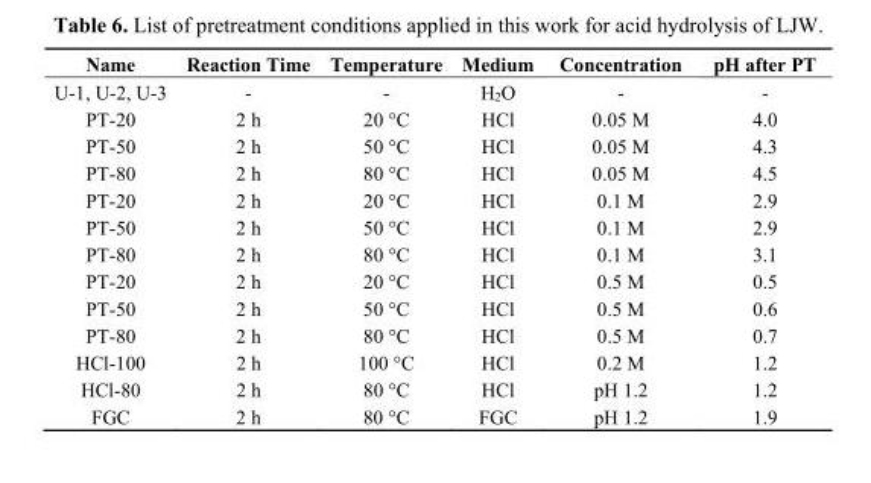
<table><thead><tr><td>Name</td><td>Reaction Time</td><td>Temperature</td><td>Medium</td><td>Concentration</td><td>pH after PT</td></tr></thead><tbody><tr><td>U-1, U-2, U-3</td><td>-</td><td>-</td><td>H<sub>2</sub>O</td><td>-</td><td>-</td></tr><tr><td>PT-20</td><td>2 h</td><td>20 °C</td><td>HCl</td><td>0.05 M</td><td>4.0</td></tr><tr><td>PT-50</td><td>2 h</td><td>50 °C</td><td>HCl</td><td>0.05 M</td><td>4.3</td></tr><tr><td>PT-80</td><td>2 h</td><td>80 °C</td><td>HCl</td><td>0.05 M</td><td>4.5</td></tr><tr><td>PT-20</td><td>2 h</td><td>20 °C</td><td>HCl</td><td>0.1 M</td><td>2.9</td></tr><tr><td>PT-50</td><td>2 h</td><td>50 °C</td><td>HCl</td><td>0.1 M</td><td>2.9</td></tr><tr><td>PT-80</td><td>2 h</td><td>80 °C</td><td>HCl</td><td>0.1 M</td><td>3.1</td></tr><tr><td>PT-20</td><td>2 h</td><td>20 °C</td><td>HCl</td><td>0.5 M</td><td>0.5</td></tr><tr><td>PT-50</td><td>2 h</td><td>50 °C</td><td>HCl</td><td>0.5 M</td><td>0.6</td></tr><tr><td>PT-80</td><td>2 h</td><td>80 °C</td><td>HCl</td><td>0.5 M</td><td>0.7</td></tr><tr><td>HCl-100</td><td>2 h</td><td>100 °C</td><td>HCl</td><td>0.2 M</td><td>1.2</td></tr><tr><td>HCl-80</td><td>2 h</td><td>80 °C</td><td>HCl</td><td>pH 1.2</td><td>1.2</td></tr><tr><td>FGC</td><td>2 h</td><td>80 °C</td><td>FGC</td><td>pH 1.2</td><td>1.9</td></tr></tbody></table>